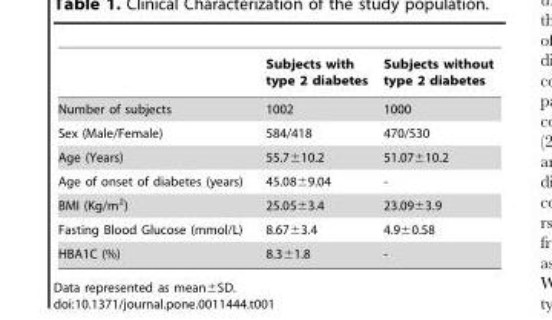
<table><thead><tr><td></td><td>Subjects with type 2 diabetes</td><td>Subjects without type 2 diabetes</td></tr></thead><tbody><tr><td>Number of subjects</td><td>1002</td><td>1000</td></tr><tr><td>Sex (Male/Female)</td><td>584/418</td><td>470/530</td></tr><tr><td>Age (Years)</td><td>55.7±10.2</td><td>51.07±10.2</td></tr><tr><td>Age of onset of diabetes (years)</td><td>45.08±9.04</td><td>-</td></tr><tr><td>BMI (Kg/m<sup>2</sup>)</td><td>25.05±3.4</td><td>23.09±3.9</td></tr><tr><td>Fasting Blood Glucose (mmol/L)</td><td>8.67±3.4</td><td>4.9±0.58</td></tr><tr><td>HBA1C (%)</td><td>8.3±1.8</td><td>-</td></tr></tbody></table>